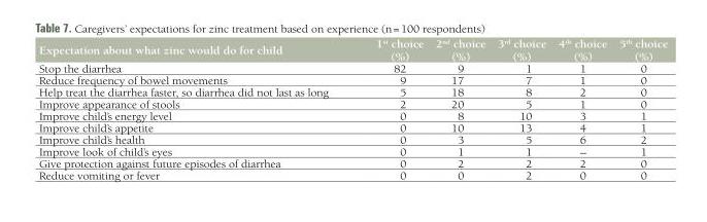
<table><thead><tr><td>Expectation about what zinc would do for child</td><td>1<sup>st</sup> choice (%)</td><td>2<sup>nd</sup> choice (%)</td><td>3<sup>rd</sup> choice (%)</td><td>4<sup>th</sup> choice (%)</td><td>5<sup>th</sup> choice (%)</td></tr></thead><tbody><tr><td>Stop the diarrhea</td><td>82</td><td>9</td><td>1</td><td>1</td><td>0</td></tr><tr><td>Reduce frequency of bowel movements</td><td>9</td><td>17</td><td>7</td><td>1</td><td>0</td></tr><tr><td>Help treat the diarrhea faster, so diarrhea did not last as long</td><td>5</td><td>18</td><td>8</td><td>2</td><td>0</td></tr><tr><td>Improve appearance of stools</td><td>2</td><td>20</td><td>5</td><td>1</td><td>0</td></tr><tr><td>Improve child’s energy level</td><td>0</td><td>8</td><td>10</td><td>3</td><td>1</td></tr><tr><td>Improve child’s appetite</td><td>0</td><td>10</td><td>13</td><td>4</td><td>1</td></tr><tr><td>Improve child’s health</td><td>0</td><td>3</td><td>5</td><td>6</td><td>2</td></tr><tr><td>Improve look of child’s eyes</td><td>0</td><td>1</td><td>1</td><td>–</td><td>1</td></tr><tr><td>Give protection against future episodes of diarrhea</td><td>0</td><td>2</td><td>2</td><td>2</td><td>0</td></tr><tr><td>Reduce vomiting or fever</td><td>0</td><td>0</td><td>2</td><td>0</td><td>0</td></tr></tbody></table>